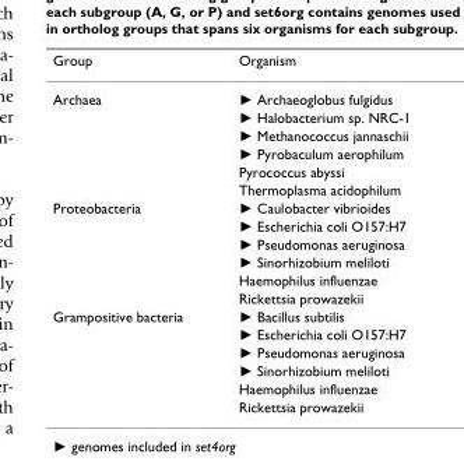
<table><thead><tr><td>Group</td><td>Organism</td></tr></thead><tbody><tr><td rowspan="6">Archaea</td><td>Ј Archaeoglobus fulgidus</td></tr><tr><td>Ј Halobacterium sp. NRC-1</td></tr><tr><td>Ј Methanococcus jannaschii</td></tr><tr><td>Ј Pyrobaculum aerophilum</td></tr><tr><td>Pyrococcus abyssi</td></tr><tr><td>Thermoplasma acidophilum</td></tr><tr><td rowspan="6">Proteobacteria</td><td>Ј Caulobacter vibrioides</td></tr><tr><td>Ј Escherichia coli O157:H7</td></tr><tr><td>Ј Pseudomonas aeruginosa</td></tr><tr><td>Ј Sinorhizobium meliloti</td></tr><tr><td>Haemophilus influenzae</td></tr><tr><td>Rickettsia prowazekii</td></tr><tr><td rowspan="6">Grampositive bacteria</td><td>Ј Bacillus subtilis</td></tr><tr><td>Ј Escherichia coli O157:H7</td></tr><tr><td>Ј Pseudomonas aeruginosa</td></tr><tr><td>Ј Sinorhizobium meliloti</td></tr><tr><td>Haemophilus influenzae</td></tr><tr><td>Rickettsia prowazekii</td></tr></tbody></table>